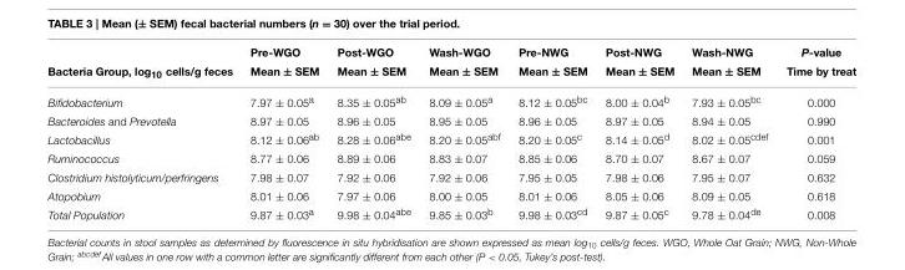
<table><thead><tr><td rowspan="2">Bacteria Group, log<sub>10</sub> cells/g feces</td><td rowspan="2">Pre-WGO Mean ± SEM</td><td rowspan="2">Post-WGO Mean ± SEM</td><td rowspan="2">Wash-WGO Mean ± SEM</td><td rowspan="2">Pre-NWG Mean ± SEM</td><td rowspan="2">Post-NWG Mean ± SEM</td><td rowspan="2">Wash-NWG Mean ± SEM</td><td rowspan="2">P-value Time by treat</td></tr><tr></tr></thead><tbody><tr><td>Bifidobacterium</td><td>7.97 ± 0.05<sup>a</sup></td><td>8.35 ± 0.05<sup>ab</sup></td><td>8.09 ± 0.05<sup>a</sup></td><td>8.12 ± 0.05<sup>bc</sup></td><td>8.00 ± 0.04<sup>b</sup></td><td>7.93 ± 0.05<sup>bc</sup></td><td>0.000</td></tr><tr><td>Bacteroides and Prevotella</td><td>8.97 ± 0.05</td><td>8.96 ± 0.05</td><td>8.95 ± 0.05</td><td>8.96 ± 0.05</td><td>8.97 ± 0.05</td><td>8.94 ± 0.05</td><td>0.990</td></tr><tr><td>Lactobacillus</td><td>8.12 ± 0.06<sup>ab</sup></td><td>8.28 ± 0.06<sup>abe</sup></td><td>8.20 ± 0.05<sup>abf</sup></td><td>8.20 ± 0.05<sup>c</sup></td><td>8.14 ± 0.05<sup>d</sup></td><td>8.02 ± 0.05<sup>cdef</sup></td><td>0.001</td></tr><tr><td>Ruminococcus</td><td>8.77 ± 0.06</td><td>8.89 ± 0.06</td><td>8.83 ± 0.07</td><td>8.85 ± 0.06</td><td>8.70 ± 0.07</td><td>8.67 ± 0.07</td><td>0.059</td></tr><tr><td>Clostridium histolyticum/perfringens</td><td>7.98 ± 0.07</td><td>7.92 ± 0.06</td><td>7.92 ± 0.06</td><td>7.95 ± 0.05</td><td>7.98 ± 0.06</td><td>7.95 ± 0.07</td><td>0.632</td></tr><tr><td>Atopobium</td><td>8.01 ± 0.06</td><td>7.97 ± 0.06</td><td>8.00 ± 0.05</td><td>8.01 ± 0.06</td><td>8.05 ± 0.06</td><td>8.09 ± 0.05</td><td>0.618</td></tr><tr><td>Total Population</td><td>9.87 ± 0.03<sup>a</sup></td><td>9.98 ± 0.04<sup>abe</sup></td><td>9.85 ± 0.03<sup>b</sup></td><td>9.98 ± 0.03<sup>cd</sup></td><td>9.87 ± 0.05<sup>c</sup></td><td>9.78 ± 0.04<sup>de</sup></td><td>0.008</td></tr></tbody></table>